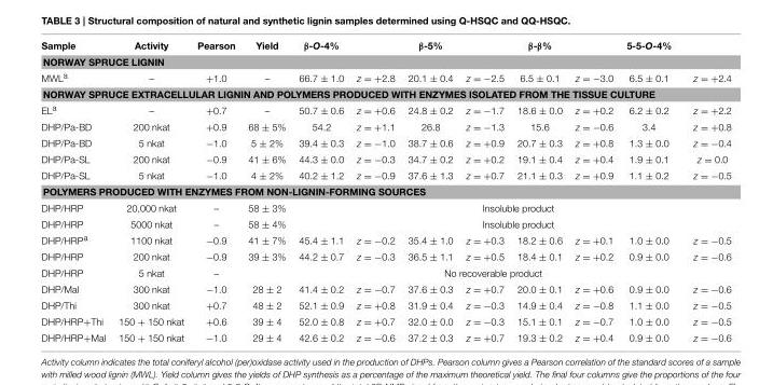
<table><thead><tr><td>Sample</td><td>Activity</td><td>Pearson</td><td>Yield</td><td>β-O-4%</td><td></td><td>β-5%</td><td></td><td>β-β%</td><td></td><td>5-5-O-4%</td><td></td></tr></thead><tbody><tr><td colspan="12">NORWAY SPRUCE LIGNIN</td></tr><tr><td>MWL<sup>a</sup></td><td>–</td><td>+1.0</td><td>–</td><td>66.7 ± 1.0</td><td>z = +2.8</td><td>20.1 ± 0.4</td><td>z = −2.5</td><td>6.5 ± 0.1</td><td>z = −3.0</td><td>6.5 ± 0.1</td><td>z = +2.4</td></tr><tr><td colspan="12">NORWAY SPRUCE EXTRACELLULAR LIGNIN AND POLYMERS PRODUCED WITH ENZYMES ISOLATED FROM THE TISSUE CULTURE</td></tr><tr><td>EL<sup>a</sup></td><td>–</td><td>+0.7</td><td>–</td><td>50.7 ± 0.6</td><td>z = +0.6</td><td>24.8 ± 0.2</td><td>z = −1.7</td><td>18.6 ± 0.0</td><td>z = +0.2</td><td>6.2 ± 0.2</td><td>z = +2.2</td></tr><tr><td>DHP/Pa-BD</td><td>200 nkat</td><td>+0.9</td><td>68 ± 5%</td><td>54.2</td><td>z = +1.1</td><td>26.8</td><td>z = −1.3</td><td>15.6</td><td>z = −0.6</td><td>3.4</td><td>z = +0.8</td></tr><tr><td>DHP/Pa-BD</td><td>5 nkat</td><td>−1.0</td><td>5 ± 2%</td><td>39.4 ± 0.3</td><td>z = −1.0</td><td>38.7 ± 0.6</td><td>z = +0.9</td><td>20.7 ± 0.3</td><td>z = +0.8</td><td>1.3 ± 0.0</td><td>z = −0.4</td></tr><tr><td>DHP/Pa-SL</td><td>200 nkat</td><td>−0.9</td><td>41 ± 6%</td><td>44.3 ± 0.0</td><td>z = −0.3</td><td>34.7 ± 0.2</td><td>z = +0.2</td><td>19.1 ± 0.4</td><td>z = +0.4</td><td>1.9 ± 0.1</td><td>z = 0.0</td></tr><tr><td>DHP/Pa-SL</td><td>5 nkat</td><td>−1.0</td><td>4 ± 2%</td><td>40.2 ± 1.2</td><td>z = −0.9</td><td>37.6 ± 1.3</td><td>z = +0.7</td><td>21.1 ± 0.3</td><td>z = +0.9</td><td>1.1 ± 0.2</td><td>z = −0.5</td></tr><tr><td colspan="12">POLYMERS PRODUCED WITH ENZYMES FROM NON-LIGNIN-FORMING SOURCES</td></tr><tr><td>DHP/HRP</td><td>20,000 nkat</td><td>–</td><td>58 ± 3%</td><td colspan="8">Insoluble product</td></tr><tr><td>DHP/HRP</td><td>5000 nkat</td><td>–</td><td>58 ± 4%</td><td colspan="8">Insoluble product</td></tr><tr><td>DHP/HRP<sup>a</sup></td><td>1100 nkat</td><td>−0.9</td><td>41 ± 7%</td><td>45.4 ± 1.1</td><td>z = −0.2</td><td>35.4 ± 1.0</td><td>z = +0.3</td><td>18.2 ± 0.6</td><td>z = +0.1</td><td>1.0 ± 0.0</td><td>z = −0.5</td></tr><tr><td>DHP/HRP</td><td>200 nkat</td><td>−0.9</td><td>39 ± 3%</td><td>44.2 ± 0.7</td><td>z = −0.3</td><td>36.5 ± 1.1</td><td>z = +0.5</td><td>18.4 ± 0.1</td><td>z = +0.2</td><td>0.9 ± 0.0</td><td>z = −0.6</td></tr><tr><td>DHP/HRP</td><td>5 nkat</td><td>–</td><td colspan="9">No recoverable product</td></tr><tr><td>DHP/Mal</td><td>300 nkat</td><td>−1.0</td><td>28 ± 2</td><td>41.4 ± 0.2</td><td>z = −0.7</td><td>37.6 ± 0.3</td><td>z = +0.7</td><td>20.0 ± 0.1</td><td>z = +0.6</td><td>0.9 ± 0.0</td><td>z = −0.6</td></tr><tr><td>DHP/Thi</td><td>300 nkat</td><td>+0.7</td><td>48 ± 2</td><td>52.1 ± 0.9</td><td>z = +0.8</td><td>31.9 ± 0.4</td><td>z = −0.3</td><td>14.9 ± 0.4</td><td>z = −0.8</td><td>1.1 ± 0.0</td><td>z = −0.5</td></tr><tr><td>DHP/HRP+Thi</td><td>150 + 150 nkat</td><td>+0.6</td><td>39 ± 4</td><td>52.0 ± 0.8</td><td>z = +0.7</td><td>32.0 ± 0.0</td><td>z = −0.3</td><td>15.1 ± 0.1</td><td>z = −0.7</td><td>1.0 ± 0.0</td><td>z = −0.5</td></tr><tr><td>DHP/HRP+Mal</td><td>150 + 150 nkat</td><td>−1.0</td><td>29 ± 4</td><td>42.6 ± 0.2</td><td>z = −0.6</td><td>37.2 ± 0.3</td><td>z = +0.7</td><td>19.3 ± 0.2</td><td>z = +0.4</td><td>0.9 ± 0.0</td><td>z = −0.6</td></tr></tbody></table>